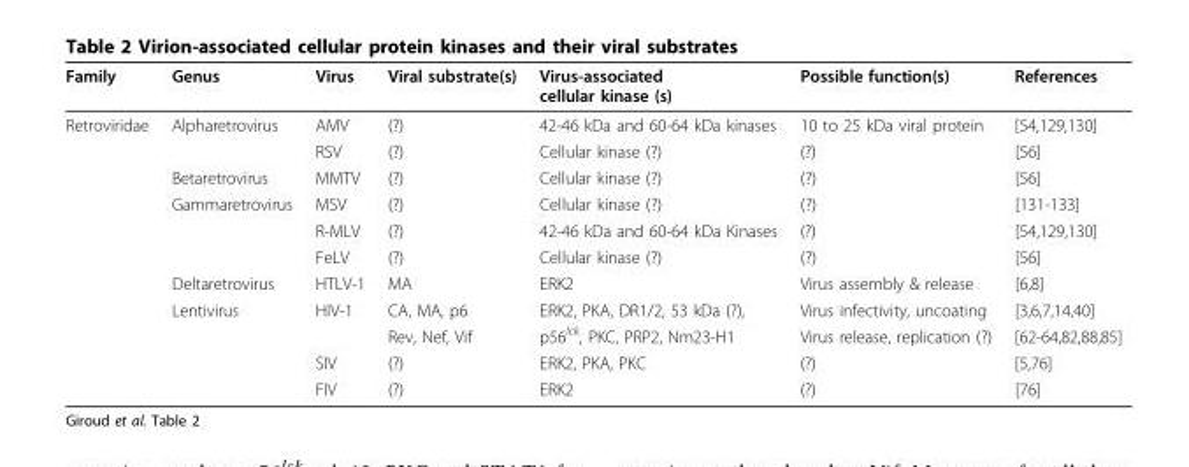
<table><thead><tr><td>Family</td><td>Genus</td><td>Virus</td><td>Viral substrate(s)</td><td>Virus-associated cellular kinase (s)</td><td>Possible function(s)</td><td>References</td></tr></thead><tbody><tr><td rowspan="11">Retroviridae</td><td>Alpharetrovirus</td><td>AMV</td><td>(?)</td><td>42-46 kDa and 60-64 kDa kinases</td><td>10 to 25 kDa viral protein</td><td>[54,129,130]</td></tr><tr><td></td><td>RSV</td><td>(?)</td><td>Cellular kinase (?)</td><td>(?)</td><td>[56]</td></tr><tr><td>Betaretrovirus</td><td>MMTV</td><td>(?)</td><td>Cellular kinase (?)</td><td>(?)</td><td>[56]</td></tr><tr><td>Gammaretrovirus</td><td>MSV</td><td>(?)</td><td>Cellular kinase (?)</td><td>(?)</td><td>[131-133]</td></tr><tr><td></td><td>R-MLV</td><td>(?)</td><td>42-46 kDa and 60-64 kDa Kinases</td><td>(?)</td><td>[54,129,130]</td></tr><tr><td></td><td>FeLV</td><td>(?)</td><td>Cellular kinase (?)</td><td>(?)</td><td>[56]</td></tr><tr><td>Deltaretrovirus</td><td>HTLV-1</td><td>MA</td><td>ERK2</td><td>Virus assembly &amp; release</td><td>[6,8]</td></tr><tr><td>Lentivirus</td><td>HIV-1</td><td>CA, MA, p6</td><td>ERK2, PKA, DR1/2, 53 kDa (?),</td><td>Virus infectivity, uncoating</td><td>[3,6,7,14,40]</td></tr><tr><td></td><td></td><td>Rev, Nef, Vif</td><td>p56<sup>lck</sup>, PKC, PRP2, Nm23-H1</td><td>Virus release, replication (?)</td><td>[62-64,82,88,85]</td></tr><tr><td></td><td>SIV</td><td>(?)</td><td>ERK2, PKA, PKC</td><td>(?)</td><td>[5,76]</td></tr><tr><td></td><td>FIV</td><td>(?)</td><td>ERK2</td><td>(?)</td><td>[76]</td></tr></tbody></table>